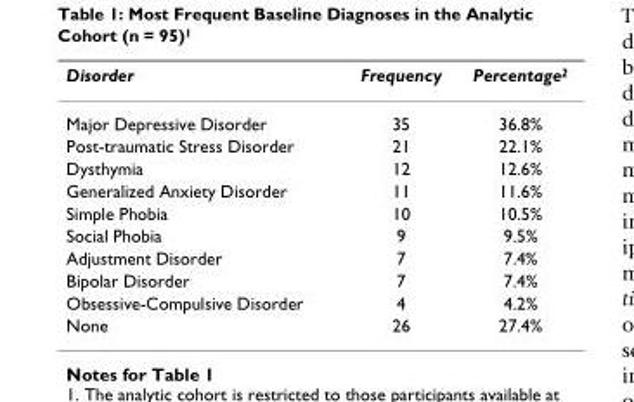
<table><thead><tr><td>Disorder</td><td>Frequency</td><td>Percentage<sup>2</sup></td></tr></thead><tbody><tr><td>Major Depressive Disorder</td><td>35</td><td>36.8%</td></tr><tr><td>Post-traumatic Stress Disorder</td><td>21</td><td>22.1%</td></tr><tr><td>Dysthymia</td><td>12</td><td>12.6%</td></tr><tr><td>Generalized Anxiety Disorder</td><td>11</td><td>11.6%</td></tr><tr><td>Simple Phobia</td><td>10</td><td>10.5%</td></tr><tr><td>Social Phobia</td><td>9</td><td>9.5%</td></tr><tr><td>Adjustment Disorder</td><td>7</td><td>7.4%</td></tr><tr><td>Bipolar Disorder</td><td>7</td><td>7.4%</td></tr><tr><td>Obsessive-Compulsive Disorder</td><td>4</td><td>4.2%</td></tr><tr><td>None</td><td>26</td><td>27.4%</td></tr></tbody></table>